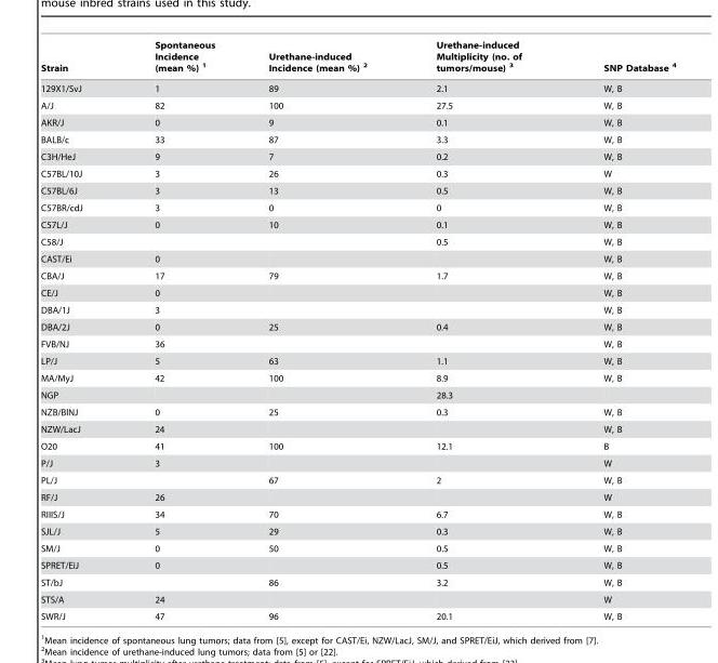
<table><thead><tr><td>Strain</td><td>Spontaneous Incidence (mean %) 1</td><td>Urethane-induced Incidence (mean %) 2</td><td>Urethane-induced Multiplicity (no. of tumors/mouse) 3</td><td>SNP Database 4</td></tr></thead><tbody><tr><td>129X1/SvJ</td><td>1</td><td>89</td><td>2.1</td><td>W, B</td></tr><tr><td>A/J</td><td>82</td><td>100</td><td>27.5</td><td>W, B</td></tr><tr><td>AKR/J</td><td>0</td><td>9</td><td>0.1</td><td>W, B</td></tr><tr><td>BALB/c</td><td>33</td><td>87</td><td>3.3</td><td>W, B</td></tr><tr><td>C3H/HeJ</td><td>9</td><td>7</td><td>0.2</td><td>W, B</td></tr><tr><td>C57BL/10J</td><td>3</td><td>26</td><td>0.3</td><td>W</td></tr><tr><td>C57BL/6J</td><td>3</td><td>13</td><td>0.5</td><td>W, B</td></tr><tr><td>C57BR/cdJ</td><td>3</td><td>0</td><td>0</td><td>W, B</td></tr><tr><td>C57L/J</td><td>0</td><td>10</td><td>0.1</td><td>W, B</td></tr><tr><td>C58/J</td><td></td><td></td><td>0.5</td><td>W, B</td></tr><tr><td>CAST/Ei</td><td>0</td><td></td><td></td><td>W, B</td></tr><tr><td>CBA/J</td><td>17</td><td>79</td><td>1.7</td><td>W, B</td></tr><tr><td>CE/J</td><td>0</td><td></td><td></td><td>W, B</td></tr><tr><td>DBA/1J</td><td>3</td><td></td><td></td><td>W, B</td></tr><tr><td>DBA/2J</td><td>0</td><td>25</td><td>0.4</td><td>W, B</td></tr><tr><td>FVB/NJ</td><td>36</td><td></td><td></td><td>W, B</td></tr><tr><td>LP/J</td><td>5</td><td>63</td><td>1.1</td><td>W, B</td></tr><tr><td>MA/MyJ</td><td>42</td><td>100</td><td>8.9</td><td>W, B</td></tr><tr><td>NGP</td><td></td><td></td><td>28.3</td><td></td></tr><tr><td>NZB/BlNJ</td><td>0</td><td>25</td><td>0.3</td><td>W, B</td></tr><tr><td>NZW/LacJ</td><td>24</td><td></td><td></td><td>W, B</td></tr><tr><td>O20</td><td>41</td><td>100</td><td>12.1</td><td>B</td></tr><tr><td>P/J</td><td>3</td><td></td><td></td><td>W</td></tr><tr><td>PL/J</td><td></td><td>67</td><td>2</td><td>W, B</td></tr><tr><td>RF/J</td><td>26</td><td></td><td></td><td>W</td></tr><tr><td>RIIIS/J</td><td>34</td><td>70</td><td>6.7</td><td>W, B</td></tr><tr><td>SJL/J</td><td>5</td><td>29</td><td>0.3</td><td>W, B</td></tr><tr><td>SM/J</td><td>0</td><td>50</td><td>0.5</td><td>W, B</td></tr><tr><td>SPRET/EiJ</td><td>0</td><td></td><td>0.5</td><td>W, B</td></tr><tr><td>ST/bJ</td><td></td><td>86</td><td>3.2</td><td>W, B</td></tr><tr><td>STS/A</td><td>24</td><td></td><td></td><td>W</td></tr><tr><td>SWR/J</td><td>47</td><td>96</td><td>20.1</td><td>W, B</td></tr></tbody></table>